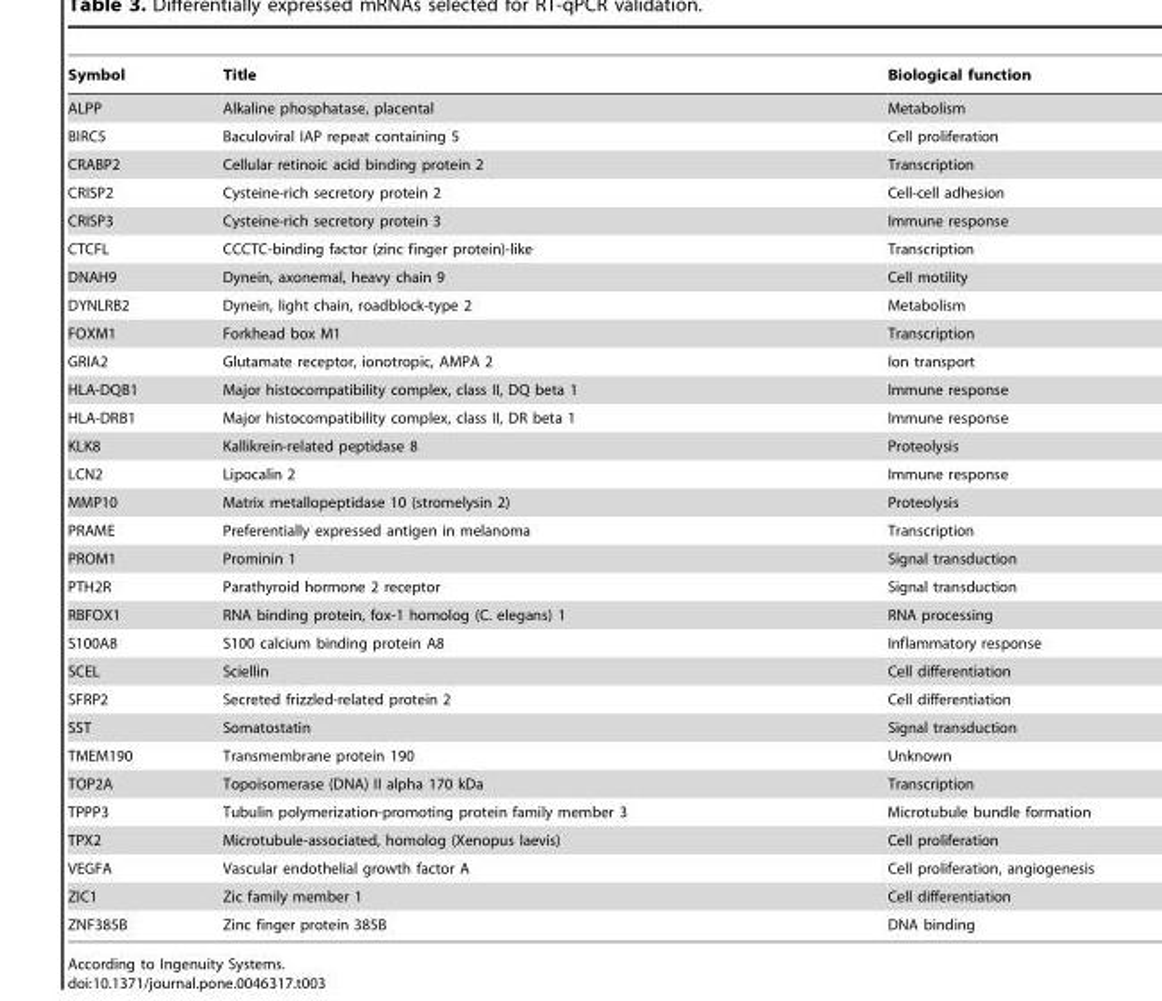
<table><thead><tr><td>Symbol</td><td>Title</td><td>Biological function</td></tr></thead><tbody><tr><td>ALPP</td><td>Alkaline phosphatase, placental</td><td>Metabolism</td></tr><tr><td>BIRC5</td><td>Baculoviral IAP repeat containing 5</td><td>Cell proliferation</td></tr><tr><td>CRABP2</td><td>Cellular retinoic acid binding protein 2</td><td>Transcription</td></tr><tr><td>CRISP2</td><td>Cysteine-rich secretory protein 2</td><td>Cell-cell adhesion</td></tr><tr><td>CRISP3</td><td>Cysteine-rich secretory protein 3</td><td>Immune response</td></tr><tr><td>CTCFL</td><td>CCCTC-binding factor (zinc finger protein)-like</td><td>Transcription</td></tr><tr><td>DNAH9</td><td>Dynein, axonemal, heavy chain 9</td><td>Cell motility</td></tr><tr><td>DYNLRB2</td><td>Dynein, light chain, roadblock-type 2</td><td>Metabolism</td></tr><tr><td>FOXM1</td><td>Forkhead box M1</td><td>Transcription</td></tr><tr><td>GRIA2</td><td>Glutamate receptor, ionotropic, AMPA 2</td><td>Ion transport</td></tr><tr><td>HLA-DQB1</td><td>Major histocompatibility complex, class II, DQ beta 1</td><td>Immune response</td></tr><tr><td>HLA-DRB1</td><td>Major histocompatibility complex, class II, DR beta 1</td><td>Immune response</td></tr><tr><td>KLK8</td><td>Kallikrein-related peptidase 8</td><td>Proteolysis</td></tr><tr><td>LCN2</td><td>Lipocalin 2</td><td>Immune response</td></tr><tr><td>MMP10</td><td>Matrix metallopeptidase 10 (stromelysin 2)</td><td>Proteolysis</td></tr><tr><td>PRAME</td><td>Preferentially expressed antigen in melanoma</td><td>Transcription</td></tr><tr><td>PROM1</td><td>Prominin 1</td><td>Signal transduction</td></tr><tr><td>PTH2R</td><td>Parathyroid hormone 2 receptor</td><td>Signal transduction</td></tr><tr><td>RBFOX1</td><td>RNA binding protein, fox-1 homolog (C. elegans) 1</td><td>RNA processing</td></tr><tr><td>S100A8</td><td>S100 calcium binding protein A8</td><td>Inflammatory response</td></tr><tr><td>SCEL</td><td>Sciellin</td><td>Cell differentiation</td></tr><tr><td>SFRP2</td><td>Secreted frizzled-related protein 2</td><td>Cell differentiation</td></tr><tr><td>SST</td><td>Somatostatin</td><td>Signal transduction</td></tr><tr><td>TMEM190</td><td>Transmembrane protein 190</td><td>Unknown</td></tr><tr><td>TOP2A</td><td>Topoisomerase (DNA) II alpha 170 kDa</td><td>Transcription</td></tr><tr><td>TPPP3</td><td>Tubulin polymerization-promoting protein family member 3</td><td>Microtubule bundle formation</td></tr><tr><td>TPX2</td><td>Microtubule-associated, homolog (Xenopus laevis)</td><td>Cell proliferation</td></tr><tr><td>VEGFA</td><td>Vascular endothelial growth factor A</td><td>Cell proliferation, angiogenesis</td></tr><tr><td>ZIC1</td><td>Zic family member 1</td><td>Cell differentiation</td></tr><tr><td>ZNF385B</td><td>Zinc finger protein 385B</td><td>DNA binding</td></tr></tbody></table>